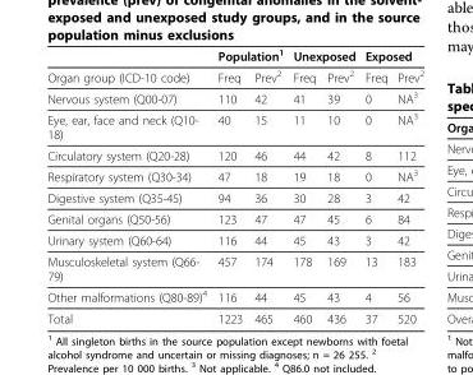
<table><thead><tr><td rowspan="2">Organ group (ICD-10 code)</td><td colspan="2">Population<sup>1</sup></td><td colspan="2">Unexposed</td><td colspan="2">Exposed</td></tr><tr><td>Freq</td><td>Prev<sup>2</sup></td><td>Freq</td><td>Prev<sup>2</sup></td><td>Freq</td><td>Prev<sup>2</sup></td></tr></thead><tbody><tr><td>Nervous system (Q00-07)</td><td>110</td><td>42</td><td>41</td><td>39</td><td>0</td><td>NA<sup>3</sup></td></tr><tr><td>Eye, ear, face and neck (Q10- 18)</td><td>40</td><td>15</td><td>11</td><td>10</td><td>0</td><td>NA<sup>3</sup></td></tr><tr><td>Circulatory system (Q20-28)</td><td>120</td><td>46</td><td>44</td><td>42</td><td>8</td><td>112</td></tr><tr><td>Respiratory system (Q30-34)</td><td>47</td><td>18</td><td>19</td><td>18</td><td>0</td><td>NA<sup>3</sup></td></tr><tr><td>Digestive system (Q35-45)</td><td>94</td><td>36</td><td>30</td><td>28</td><td>3</td><td>42</td></tr><tr><td>Genital organs (Q50-56)</td><td>123</td><td>47</td><td>47</td><td>45</td><td>6</td><td>84</td></tr><tr><td>Urinary system (Q60-64)</td><td>116</td><td>44</td><td>45</td><td>43</td><td>3</td><td>42</td></tr><tr><td>Musculoskeletal system (Q66- 79)</td><td>457</td><td>174</td><td>178</td><td>169</td><td>13</td><td>183</td></tr><tr><td>Other malformations (Q80-89)<sup>4</sup></td><td>116</td><td>44</td><td>45</td><td>43</td><td>4</td><td>56</td></tr><tr><td>Total</td><td>1223</td><td>465</td><td>460</td><td>436</td><td>37</td><td>520</td></tr></tbody></table>